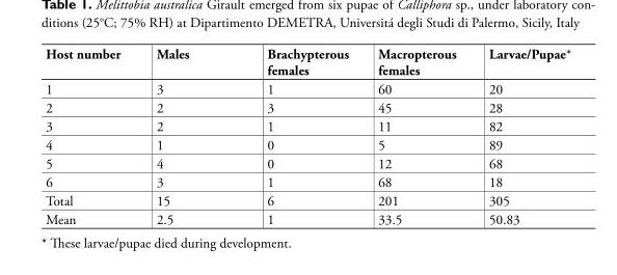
<table><thead><tr><td>Host number</td><td>Males</td><td>Brachypterous females</td><td>Macropterous females</td><td>Larvae/Pupae*</td></tr></thead><tbody><tr><td>1</td><td>3</td><td>1</td><td>60</td><td>20</td></tr><tr><td>2</td><td>2</td><td>3</td><td>45</td><td>28</td></tr><tr><td>3</td><td>2</td><td>1</td><td>11</td><td>82</td></tr><tr><td>4</td><td>1</td><td>0</td><td>5</td><td>89</td></tr><tr><td>5</td><td>4</td><td>0</td><td>12</td><td>68</td></tr><tr><td>6</td><td>3</td><td>1</td><td>68</td><td>18</td></tr><tr><td>Total</td><td>15</td><td>6</td><td>201</td><td>305</td></tr><tr><td>Mean</td><td>2.5</td><td>1</td><td>33.5</td><td>50.83</td></tr></tbody></table>